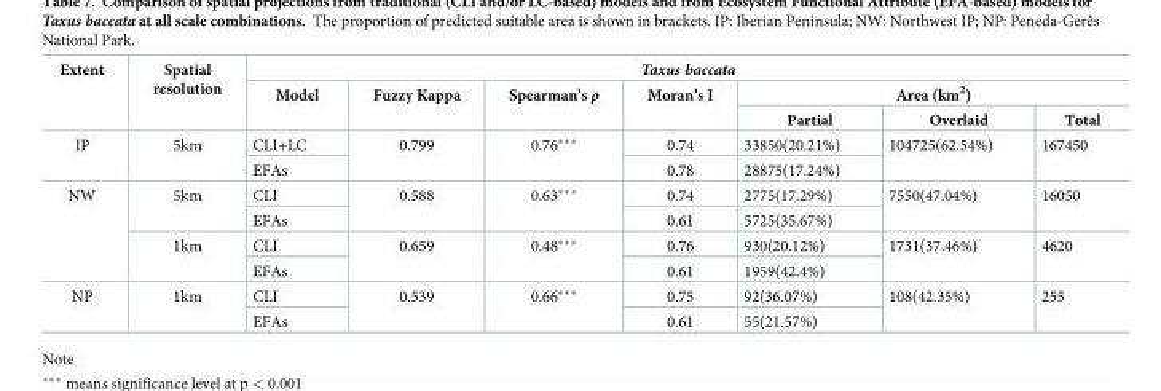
<table><thead><tr><td rowspan="3">Extent</td><td rowspan="3">Spatial resolution</td><td colspan="7">Taxus baccata</td></tr><tr><td rowspan="2">Model</td><td rowspan="2">Fuzzy Kappa</td><td rowspan="2">Spearman’s ρ</td><td rowspan="2">Moran’s I</td><td colspan="3">Area (km<sup>2</sup>)</td></tr><tr><td>Partial</td><td>Overlaid</td><td>Total</td></tr></thead><tbody><tr><td rowspan="2">IP</td><td rowspan="2">5km</td><td>CLI+LC</td><td rowspan="2">0.799</td><td rowspan="2">0.76***</td><td>0.74</td><td>33850(20.21%)</td><td rowspan="2">104725(62.54%)</td><td rowspan="2">167450</td></tr><tr><td>EFAs</td><td>0.78</td><td>28875(17.24%)</td></tr><tr><td rowspan="4">NW</td><td rowspan="2">5km</td><td>CLI</td><td rowspan="2">0.588</td><td rowspan="2">0.63***</td><td>0.74</td><td>2775(17.29%)</td><td rowspan="2">7550(47.04%)</td><td rowspan="2">16050</td></tr><tr><td>EFAs</td><td>0.61</td><td>5725(35.67%)</td></tr><tr><td rowspan="2">1km</td><td>CLI</td><td rowspan="2">0.659</td><td rowspan="2">0.48***</td><td>0.76</td><td>930(20.12%)</td><td rowspan="2">1731(37.46%)</td><td rowspan="2">4620</td></tr><tr><td>EFAs</td><td>0.61</td><td>1959(42.4%)</td></tr><tr><td rowspan="2">NP</td><td rowspan="2">1km</td><td>CLI</td><td rowspan="2">0.539</td><td rowspan="2">0.66***</td><td>0.75</td><td>92(36.07%)</td><td rowspan="2">108(42.35%)</td><td rowspan="2">255</td></tr><tr><td>EFAs</td><td>0.61</td><td>55(21.57%)</td></tr></tbody></table>